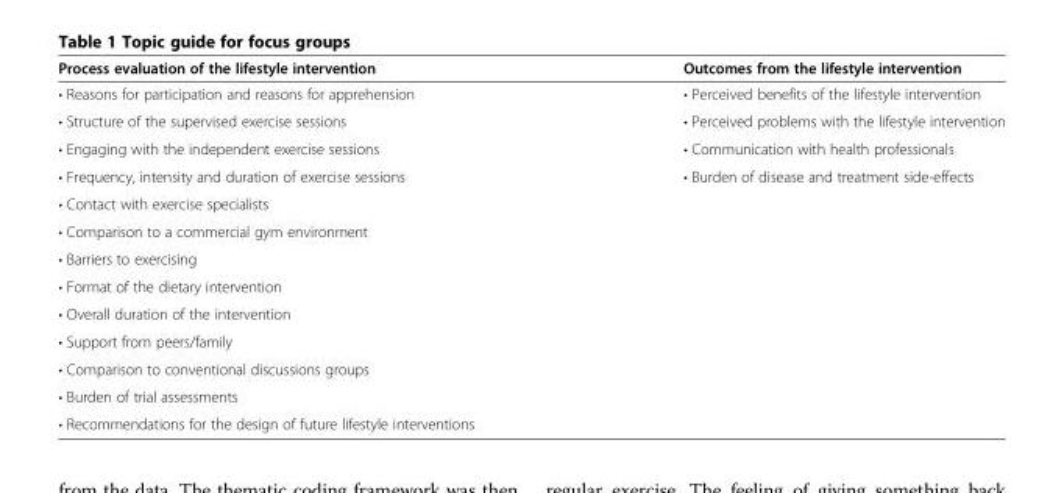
<table><thead><tr><td>Process evaluation of the lifestyle intervention</td><td>Outcomes from the lifestyle intervention</td></tr></thead><tbody><tr><td>• Reasons for participation and reasons for apprehension</td><td>• Perceived benefits of the lifestyle intervention</td></tr><tr><td>• Structure of the supervised exercise sessions</td><td>• Perceived problems with the lifestyle intervention</td></tr><tr><td>• Engaging with the independent exercise sessions</td><td>• Communication with health professionals</td></tr><tr><td>• Frequency, intensity and duration of exercise sessions</td><td>• Burden of disease and treatment side-effects</td></tr><tr><td colspan="2">• Contact with exercise specialists</td></tr><tr><td colspan="2">• Comparison to a commercial gym environment</td></tr><tr><td colspan="2">• Barriers to exercising</td></tr><tr><td colspan="2">• Format of the dietary intervention</td></tr><tr><td colspan="2">• Overall duration of the intervention</td></tr><tr><td colspan="2">• Support from peers/family</td></tr><tr><td colspan="2">• Comparison to conventional discussions groups</td></tr><tr><td colspan="2">• Burden of trial assessments</td></tr><tr><td>• Recommendations for the design of future lifestyle interventions</td><td></td></tr></tbody></table>